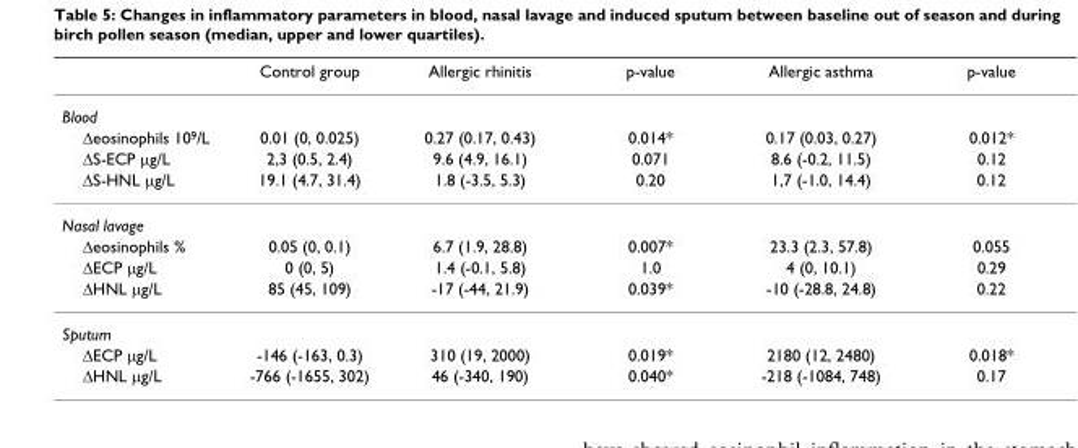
<table><thead><tr><td></td><td>Control group</td><td>Allergic rhinitis</td><td>p-value</td><td>Allergic asthma</td><td>p-value</td></tr></thead><tbody><tr><td colspan="6">Blood</td></tr><tr><td>Δeosinophils 10<sup>9</sup>/L</td><td>0.01 (0, 0.025)</td><td>0.27 (0.17, 0.43)</td><td>0.014*</td><td>0.17 (0.03, 0.27)</td><td>0.012*</td></tr><tr><td>ΔS-ECP μg/L</td><td>2,3 (0.5, 2.4)</td><td>9.6 (4.9, 16.1)</td><td>0.071</td><td>8.6 (-0.2, 11.5)</td><td>0.12</td></tr><tr><td>ΔS-HNL μg/L</td><td>19.1 (4.7, 31.4)</td><td>1.8 (-3.5, 5.3)</td><td>0.20</td><td>1,7 (-1.0, 14.4)</td><td>0.12</td></tr><tr><td colspan="6">Nasal lavage</td></tr><tr><td>Δeosinophils %</td><td>0.05 (0, 0.1)</td><td>6.7 (1.9, 28.8)</td><td>0.007*</td><td>23.3 (2.3, 57.8)</td><td>0.055</td></tr><tr><td>ΔECP μg/L</td><td>0 (0, 5)</td><td>1.4 (-0.1, 5.8)</td><td>1.0</td><td>4 (0, 10.1)</td><td>0.29</td></tr><tr><td>ΔHNL μg/L</td><td>85 (45, 109)</td><td>-17 (-44, 21.9)</td><td>0.039*</td><td>-10 (-28.8, 24.8)</td><td>0.22</td></tr><tr><td colspan="6">Sputum</td></tr><tr><td>ΔECP μg/L</td><td>-146 (-163, 0.3)</td><td>310 (19, 2000)</td><td>0.019*</td><td>2180 (12, 2480)</td><td>0.018*</td></tr><tr><td>ΔHNL μg/L</td><td>-766 (-1655, 302)</td><td>46 (-340, 190)</td><td>0.040*</td><td>-218 (-1084, 748)</td><td>0.17</td></tr></tbody></table>